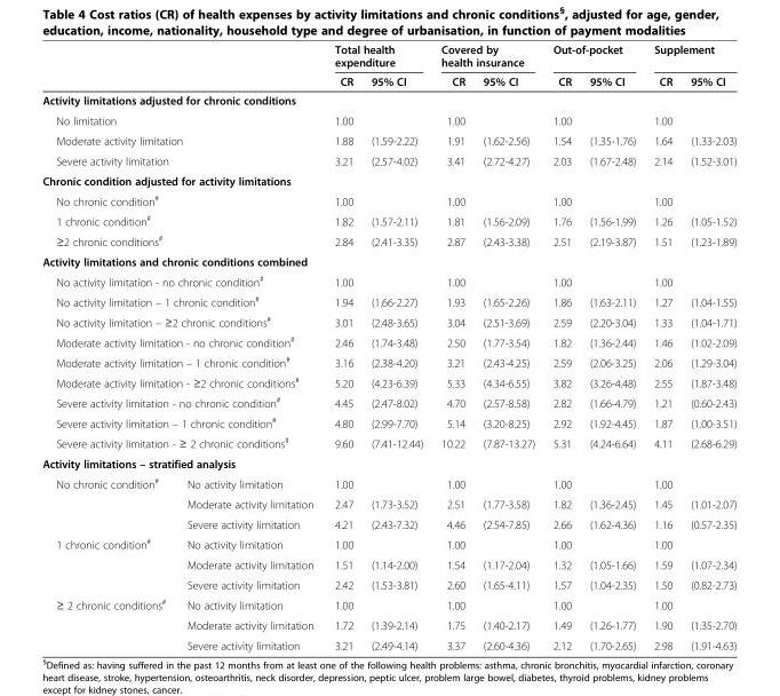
<table><thead><tr><td rowspan="2"></td><td rowspan="2"></td><td colspan="2">Total health expenditure</td><td colspan="2">Covered by health insurance</td><td colspan="2">Out-of-pocket</td><td colspan="2">Supplement</td></tr><tr><td>CR</td><td>95% CI</td><td>CR</td><td>95% CI</td><td>CR</td><td>95% CI</td><td>CR</td><td>95% CI</td></tr></thead><tbody><tr><td colspan="10">Activity limitations adjusted for chronic conditions</td></tr><tr><td colspan="2">No limitation</td><td>1.00</td><td></td><td>1.00</td><td></td><td>1.00</td><td></td><td>1.00</td><td></td></tr><tr><td colspan="2">Moderate activity limitation</td><td>1.88</td><td>(1.59-2.22)</td><td>1.91</td><td>(1.62-2.56)</td><td>1.54</td><td>(1.35-1.76)</td><td>1.64</td><td>(1.33-2.03)</td></tr><tr><td colspan="2">Severe activity limitation</td><td>3.21</td><td>(2.57-4.02)</td><td>3.41</td><td>(2.72-4.27)</td><td>2.03</td><td>(1.67-2.48)</td><td>2.14</td><td>(1.52-3.01)</td></tr><tr><td colspan="10">Chronic condition adjusted for activity limitations</td></tr><tr><td colspan="2">No chronic condition<sup>#</sup></td><td>1.00</td><td></td><td>1.00</td><td></td><td>1.00</td><td></td><td>1.00</td><td></td></tr><tr><td colspan="2">1 chronic condition<sup>#</sup></td><td>1.82</td><td>(1.57-2.11)</td><td>1.81</td><td>(1.56-2.09)</td><td>1.76</td><td>(1.56-1.99)</td><td>1.26</td><td>(1.05-1.52)</td></tr><tr><td colspan="2">≥2 chronic conditions<sup>#</sup></td><td>2.84</td><td>(2.41-3.35)</td><td>2.87</td><td>(2.43-3.38)</td><td>2.51</td><td>(2.19-3.87)</td><td>1.51</td><td>(1.23-1.89)</td></tr><tr><td colspan="10">Activity limitations and chronic conditions combined</td></tr><tr><td colspan="2">No activity limitation - no chronic condition<sup>#</sup></td><td>1.00</td><td></td><td>1.00</td><td></td><td>1.00</td><td></td><td>1.00</td><td></td></tr><tr><td colspan="2">No activity limitation – 1 chronic condition<sup>#</sup></td><td>1.94</td><td>(1.66-2.27)</td><td>1.93</td><td>(1.65-2.26)</td><td>1.86</td><td>(1.63-2.11)</td><td>1.27</td><td>(1.04-1.55)</td></tr><tr><td colspan="2">No activity limitation – ≥2 chronic conditions<sup>#</sup></td><td>3.01</td><td>(2.48-3.65)</td><td>3.04</td><td>(2.51-3.69)</td><td>2.59</td><td>(2.20-3.04)</td><td>1.33</td><td>(1.04-1.71)</td></tr><tr><td colspan="2">Moderate activity limitation - no chronic condition<sup>#</sup></td><td>2.46</td><td>(1.74-3.48)</td><td>2.50</td><td>(1.77-3.54)</td><td>1.82</td><td>(1.36-2.44)</td><td>1.46</td><td>(1.02-2.09)</td></tr><tr><td colspan="2">Moderate activity limitation – 1 chronic condition<sup>#</sup></td><td>3.16</td><td>(2.38-4.20)</td><td>3.21</td><td>(2.43-4.25)</td><td>2.59</td><td>(2.06-3.25)</td><td>2.06</td><td>(1.29-3.04)</td></tr><tr><td colspan="2">Moderate activity limitation - ≥2 chronic conditions<sup>#</sup></td><td>5.20</td><td>(4.23-6.39)</td><td>5.33</td><td>(4.34-6.55)</td><td>3.82</td><td>(3.26-4.48)</td><td>2.55</td><td>(1.87-3.48)</td></tr><tr><td colspan="2">Severe activity limitation - no chronic condition<sup>#</sup></td><td>4.45</td><td>(2.47-8.02)</td><td>4.70</td><td>(2.57-8.58)</td><td>2.82</td><td>(1.66-4.79)</td><td>1.21</td><td>(0.60-2.43)</td></tr><tr><td colspan="2">Severe activity limitation – 1 chronic condition<sup>#</sup></td><td>4.80</td><td>(2.99-7.70)</td><td>5.14</td><td>(3.20-8.25)</td><td>2.92</td><td>(1.92-4.45)</td><td>1.87</td><td>(1.00-3.51)</td></tr><tr><td colspan="2">Severe activity limitation - ≥ 2 chronic conditions<sup>#</sup></td><td>9.60</td><td>(7.41-12.44)</td><td>10.22</td><td>(7.87-13.27)</td><td>5.31</td><td>(4.24-6.64)</td><td>4.11</td><td>(2.68-6.29)</td></tr><tr><td colspan="10">Activity limitations – stratified analysis</td></tr><tr><td rowspan="3">No chronic condition<sup>#</sup></td><td>No activity limitation</td><td>1.00</td><td></td><td>1.00</td><td></td><td>1.00</td><td></td><td>1.00</td><td></td></tr><tr><td>Moderate activity limitation</td><td>2.47</td><td>(1.73-3.52)</td><td>2.51</td><td>(1.77-3.58)</td><td>1.82</td><td>(1.36-2.45)</td><td>1.45</td><td>(1.01-2.07)</td></tr><tr><td>Severe activity limitation</td><td>4.21</td><td>(2.43-7.32)</td><td>4.46</td><td>(2.54-7.85)</td><td>2.66</td><td>(1.62-4.36)</td><td>1.16</td><td>(0.57-2.35)</td></tr><tr><td rowspan="3">1 chronic condition<sup>#</sup></td><td>No activity limitation</td><td>1.00</td><td></td><td>1.00</td><td></td><td>1.00</td><td></td><td>1.00</td><td></td></tr><tr><td>Moderate activity limitation</td><td>1.51</td><td>(1.14-2.00)</td><td>1.54</td><td>(1.17-2.04)</td><td>1.32</td><td>(1.05-1.66)</td><td>1.59</td><td>(1.07-2.34)</td></tr><tr><td>Severe activity limitation</td><td>2.42</td><td>(1.53-3.81)</td><td>2.60</td><td>(1.65-4.11)</td><td>1.57</td><td>(1.04-2.35)</td><td>1.50</td><td>(0.82-2.73)</td></tr><tr><td rowspan="3">≥ 2 chronic conditions<sup>#</sup></td><td>No activity limitation</td><td>1.00</td><td></td><td>1.00</td><td></td><td>1.00</td><td></td><td>1.00</td><td></td></tr><tr><td>Moderate activity limitation</td><td>1.72</td><td>(1.39-2.14)</td><td>1.75</td><td>(1.40-2.17)</td><td>1.49</td><td>(1.26-1.77)</td><td>1.90</td><td>(1.35-2.70)</td></tr><tr><td>Severe activity limitation</td><td>3.21</td><td>(2.49-4.14)</td><td>3.37</td><td>(2.60-4.36)</td><td>2.12</td><td>(1.70-2.65)</td><td>2.98</td><td>(1.91-4.63)</td></tr></tbody></table>